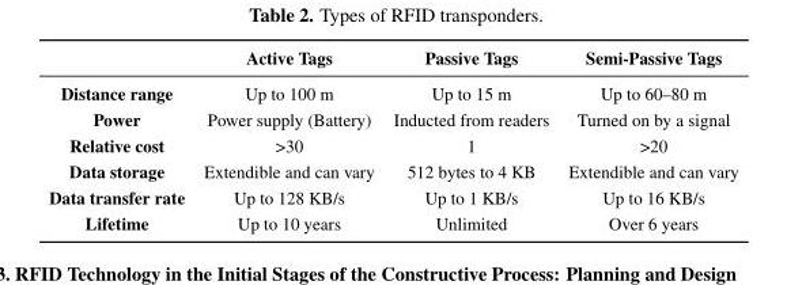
<table><thead><tr><td></td><td>Active Tags</td><td>Passive Tags</td><td>Semi-Passive Tags</td></tr></thead><tbody><tr><td>Distance range</td><td>Up to 100 m</td><td>Up to 15 m</td><td>Up to 60–80 m</td></tr><tr><td>Power</td><td>Power supply (Battery)</td><td>Inducted from readers</td><td>Turned on by a signal</td></tr><tr><td>Relative cost</td><td>&gt;30</td><td>1</td><td>&gt;20</td></tr><tr><td>Data storage</td><td>Extendible and can vary</td><td>512 bytes to 4 KB</td><td>Extendible and can vary</td></tr><tr><td>Data transfer rate</td><td>Up to 128 KB/s</td><td>Up to 1 KB/s</td><td>Up to 16 KB/s</td></tr><tr><td>Lifetime</td><td>Up to 10 years</td><td>Unlimited</td><td>Over 6 years</td></tr></tbody></table>